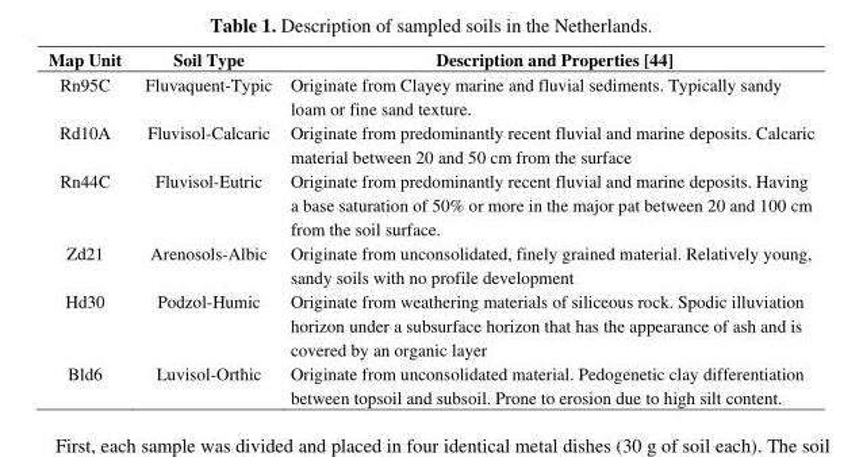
<table><thead><tr><td>Map Unit</td><td>Soil Type</td><td>Description and Properties [44]</td></tr></thead><tbody><tr><td>Rn95C</td><td>Fluvaquent-Typic</td><td>Originate from Clayey marine and fluvial sediments. Typically sandy loam or fine sand texture.</td></tr><tr><td>Rd10A</td><td>Fluvisol-Calcaric</td><td>Originate from predominantly recent fluvial and marine deposits. Calcaric material between 20 and 50 cm from the surface</td></tr><tr><td>Rn44C</td><td>Fluvisol-Eutric</td><td>Originate from predominantly recent fluvial and marine deposits. Having a base saturation of 50% or more in the major pat between 20 and 100 cm from the soil surface.</td></tr><tr><td>Zd21</td><td>Arenosols-Albic</td><td>Originate from unconsolidated, finely grained material. Relatively young, sandy soils with no profile development</td></tr><tr><td>Hd30</td><td>Podzol-Humic</td><td>Originate from weathering materials of siliceous rock. Spodic illuviation horizon under a subsurface horizon that has the appearance of ash and is covered by an organic layer</td></tr><tr><td>Bld6</td><td>Luvisol-Orthic</td><td>Originate from unconsolidated material. Pedogenetic clay differentiation between topsoil and subsoil. Prone to erosion due to high silt content.</td></tr></tbody></table>